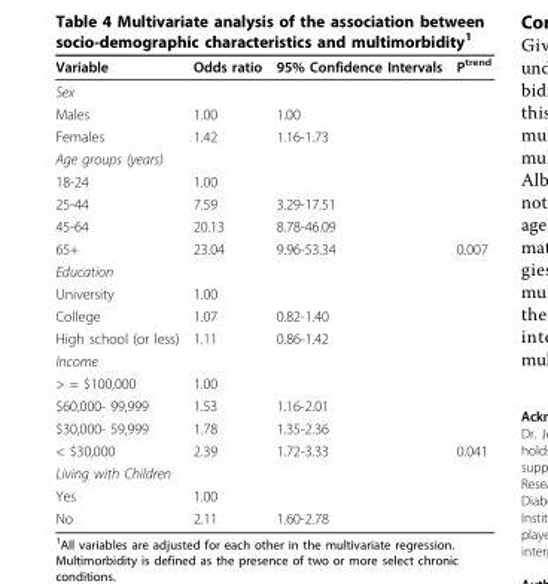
<table><thead><tr><td>Variable</td><td>Odds ratio</td><td>95% Confidence Intervals</td><td>P<sup>trend</sup></td></tr></thead><tbody><tr><td colspan="4">Sex</td></tr><tr><td>Males</td><td>1.00</td><td>1.00</td><td></td></tr><tr><td>Females</td><td>1.42</td><td>1.16-1.73</td><td></td></tr><tr><td colspan="4">Age groups (years)</td></tr><tr><td>18-24</td><td>1.00</td><td></td><td></td></tr><tr><td>25-44</td><td>7.59</td><td>3.29-17.51</td><td></td></tr><tr><td>45-64</td><td>20.13</td><td>8.78-46.09</td><td></td></tr><tr><td>65+</td><td>23.04</td><td>9.96-53.34</td><td>0.007</td></tr><tr><td colspan="4">Education</td></tr><tr><td>University</td><td>1.00</td><td></td><td></td></tr><tr><td>College</td><td>1.07</td><td>0.82-1.40</td><td></td></tr><tr><td>High school (or less)</td><td>1.11</td><td>0.86-1.42</td><td></td></tr><tr><td colspan="4">Income</td></tr><tr><td>&gt; = $100,000</td><td>1.00</td><td></td><td></td></tr><tr><td>$60,000- 99,999</td><td>1.53</td><td>1.16-2.01</td><td></td></tr><tr><td>$30,000- 59,999</td><td>1.78</td><td>1.35-2.36</td><td></td></tr><tr><td>&lt; $30,000</td><td>2.39</td><td>1.72-3.33</td><td>0.041</td></tr><tr><td colspan="4">Living with Children</td></tr><tr><td>Yes</td><td>1.00</td><td></td><td></td></tr><tr><td>No</td><td>2.11</td><td>1.60-2.78</td><td></td></tr></tbody></table>